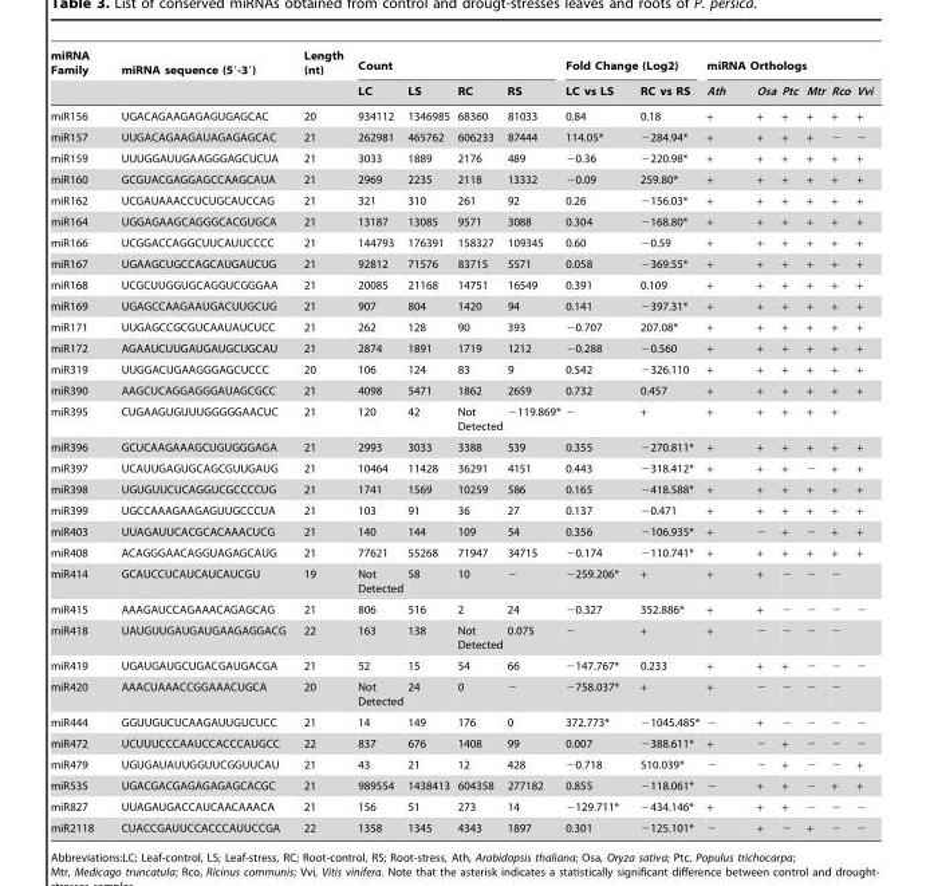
<table><thead><tr><td rowspan="2">miRNA Family</td><td rowspan="2">miRNA sequence (5′-3′)</td><td rowspan="2">Length (nt)</td><td colspan="4">Count</td><td colspan="2">Fold Change (Log2)</td><td colspan="6">miRNA Orthologs</td></tr><tr><td>LC</td><td>LS</td><td>RC</td><td>RS</td><td>LC vs LS</td><td>RC vs RS</td><td>Ath</td><td>Osa</td><td>Ptc</td><td>Mtr</td><td>Rco</td><td>Vvi</td></tr></thead><tbody><tr><td>miR156</td><td>UGACAGAAGAGAGUGAGCAC</td><td>20</td><td>934112</td><td>1346985</td><td>68360</td><td>81033</td><td>0.84</td><td>0.18</td><td>+</td><td>+</td><td>+</td><td>+</td><td>+</td><td>+</td></tr><tr><td>miR157</td><td>UUGACAGAAGAUAGAGAGCAC</td><td>21</td><td>262981</td><td>465762</td><td>606233</td><td>87444</td><td>114.05*</td><td>−284.94*</td><td>+</td><td>+</td><td>+</td><td>+</td><td>−</td><td>−</td></tr><tr><td>miR159</td><td>UUUGGAUUGAAGGGAGCUCUA</td><td>21</td><td>3033</td><td>1889</td><td>2176</td><td>489</td><td>−0.36</td><td>−220.98*</td><td>+</td><td>+</td><td>+</td><td>+</td><td>+</td><td>+</td></tr><tr><td>miR160</td><td>GCGUACGAGGAGCCAAGCAUA</td><td>21</td><td>2969</td><td>2235</td><td>2118</td><td>13332</td><td>−0.09</td><td>259.80*</td><td>+</td><td>+</td><td>+</td><td>+</td><td>+</td><td>+</td></tr><tr><td>miR162</td><td>UCGAUAAACCUCUGCAUCCAG</td><td>21</td><td>321</td><td>310</td><td>261</td><td>92</td><td>0.26</td><td>−156.03*</td><td>+</td><td>+</td><td>+</td><td>+</td><td>+</td><td>+</td></tr><tr><td>miR164</td><td>UGGAGAAGCAGGGCACGUGCA</td><td>21</td><td>13187</td><td>13085</td><td>9571</td><td>3088</td><td>0.304</td><td>−168.80*</td><td>+</td><td>+</td><td>+</td><td>+</td><td>+</td><td>+</td></tr><tr><td>miR166</td><td>UCGGACCAGGCUUCAUUCCCC</td><td>21</td><td>144793</td><td>176391</td><td>158327</td><td>109345</td><td>0.60</td><td>−0.59</td><td>+</td><td>+</td><td>+</td><td>+</td><td>+</td><td>+</td></tr><tr><td>miR167</td><td>UGAAGCUGCCAGCAUGAUCUG</td><td>21</td><td>92812</td><td>71576</td><td>83715</td><td>5571</td><td>0.058</td><td>−369.55*</td><td>+</td><td>+</td><td>+</td><td>+</td><td>+</td><td>+</td></tr><tr><td>miR168</td><td>UCGCUUGGUGCAGGUCGGGAA</td><td>21</td><td>20085</td><td>21168</td><td>14751</td><td>16549</td><td>0.391</td><td>0.109</td><td>+</td><td>+</td><td>+</td><td>+</td><td>+</td><td>+</td></tr><tr><td>miR169</td><td>UGAGCCAAGAAUGACUUGCUG</td><td>21</td><td>907</td><td>804</td><td>1420</td><td>94</td><td>0.141</td><td>−397.31*</td><td>+</td><td>+</td><td>+</td><td>+</td><td>+</td><td>+</td></tr><tr><td>miR171</td><td>UUGAGCCGCGUCAAUAUCUCC</td><td>21</td><td>262</td><td>128</td><td>90</td><td>393</td><td>−0.707</td><td>207.08*</td><td>+</td><td>+</td><td>+</td><td>+</td><td>+</td><td>+</td></tr><tr><td>miR172</td><td>AGAAUCUUGAUGAUGCUGCAU</td><td>21</td><td>2874</td><td>1891</td><td>1719</td><td>1212</td><td>−0.288</td><td>−0.560</td><td>+</td><td>+</td><td>+</td><td>+</td><td>+</td><td>+</td></tr><tr><td>miR319</td><td>UUGGACUGAAGGGAGCUCCC</td><td>20</td><td>106</td><td>124</td><td>83</td><td>9</td><td>0.542</td><td>−326.110</td><td>+</td><td>+</td><td>+</td><td>+</td><td>+</td><td>+</td></tr><tr><td>miR390</td><td>AAGCUCAGGAGGGAUAGCGCC</td><td>21</td><td>4098</td><td>5471</td><td>1862</td><td>2659</td><td>0.732</td><td>0.457</td><td>+</td><td>+</td><td>+</td><td>+</td><td>+</td><td>+</td></tr><tr><td>miR395</td><td>CUGAAGUGUUUGGGGGAACUC</td><td>21</td><td>120</td><td>42</td><td>Not Detected</td><td>−119.869*</td><td>−</td><td>+</td><td>+</td><td>+</td><td>+</td><td>+</td><td>+</td><td></td></tr><tr><td>miR396</td><td>GCUCAAGAAAGCUGUGGGAGA</td><td>21</td><td>2993</td><td>3033</td><td>3388</td><td>539</td><td>0.355</td><td>−270.811*</td><td>+</td><td>+</td><td>+</td><td>+</td><td>+</td><td>+</td></tr><tr><td>miR397</td><td>UCAUUGAGUGCAGCGUUGAUG</td><td>21</td><td>10464</td><td>11428</td><td>36291</td><td>4151</td><td>0.443</td><td>−318.412*</td><td>+</td><td>+</td><td>+</td><td>−</td><td>+</td><td>+</td></tr><tr><td>miR398</td><td>UGUGUUCUCAGGUCGCCCCUG</td><td>21</td><td>1741</td><td>1569</td><td>10259</td><td>586</td><td>0.165</td><td>−418.588*</td><td>+</td><td>+</td><td>+</td><td>+</td><td>+</td><td>+</td></tr><tr><td>miR399</td><td>UGCCAAAGAAGAGUUGCCCUA</td><td>21</td><td>103</td><td>91</td><td>36</td><td>27</td><td>0.137</td><td>−0.471</td><td>+</td><td>+</td><td>+</td><td>+</td><td>+</td><td>+</td></tr><tr><td>miR403</td><td>UUAGAUUCACGCACAAACUCG</td><td>21</td><td>140</td><td>144</td><td>109</td><td>54</td><td>0.356</td><td>−106.935*</td><td>+</td><td>−</td><td>+</td><td>−</td><td>+</td><td>+</td></tr><tr><td>miR408</td><td>ACAGGGAACAGGUAGAGCAUG</td><td>21</td><td>77621</td><td>55268</td><td>71947</td><td>34715</td><td>−0.174</td><td>−110.741*</td><td>+</td><td>+</td><td>+</td><td>+</td><td>+</td><td>+</td></tr><tr><td>miR414</td><td>GCAUCCUCAUCAUCAUCGU</td><td>19</td><td>Not Detected</td><td>58</td><td>10</td><td>−</td><td>−259.206*</td><td>+</td><td>+</td><td>+</td><td>−</td><td>−</td><td>−</td><td></td></tr><tr><td>miR415</td><td>AAAGAUCCAGAAACAGAGCAG</td><td>21</td><td>806</td><td>516</td><td>2</td><td>24</td><td>−0.327</td><td>352.886*</td><td>+</td><td>+</td><td>−</td><td>−</td><td>−</td><td>−</td></tr><tr><td>miR418</td><td>UAUGUUGAUGAUGAAGAGGACG</td><td>22</td><td>163</td><td>138</td><td>Not Detected</td><td>0.075</td><td>−</td><td>+</td><td>+</td><td>−</td><td>−</td><td>−</td><td>−</td><td></td></tr><tr><td>miR419</td><td>UGAUGAUGCUGACGAUGACGA</td><td>21</td><td>52</td><td>15</td><td>54</td><td>66</td><td>−147.767*</td><td>0.233</td><td>+</td><td>+</td><td>+</td><td>−</td><td>−</td><td>−</td></tr><tr><td>miR420</td><td>AAACUAAACCGGAAACUGCA</td><td>20</td><td>Not Detected</td><td>24</td><td>0</td><td>−</td><td>−758.037*</td><td>+</td><td>+</td><td>−</td><td>−</td><td>−</td><td>−</td><td></td></tr><tr><td>miR444</td><td>GGUUGUCUCAAGAUUGUCUCC</td><td>21</td><td>14</td><td>149</td><td>176</td><td>0</td><td>372.773*</td><td>−1045.485*</td><td>−</td><td>+</td><td>−</td><td>−</td><td>−</td><td>−</td></tr><tr><td>miR472</td><td>UCUUUCCCAAUCCACCCAUGCC</td><td>22</td><td>837</td><td>676</td><td>1408</td><td>99</td><td>0.007</td><td>−388.611*</td><td>+</td><td>−</td><td>+</td><td>−</td><td>−</td><td>−</td></tr><tr><td>miR479</td><td>UGUGAUAUUGGUUCGGUUCAU</td><td>21</td><td>43</td><td>21</td><td>12</td><td>428</td><td>−0.718</td><td>510.039*</td><td>−</td><td>−</td><td>+</td><td>−</td><td>−</td><td>+</td></tr><tr><td>miR535</td><td>UGACGACGAGAGAGAGCACGC</td><td>21</td><td>989554</td><td>1438413</td><td>604358</td><td>277182</td><td>0.855</td><td>−118.061*</td><td>−</td><td>+</td><td>+</td><td>−</td><td>+</td><td>+</td></tr><tr><td>miR827</td><td>UUAGAUGACCAUCAACAAACA</td><td>21</td><td>156</td><td>51</td><td>273</td><td>14</td><td>−129.711*</td><td>−434.146*</td><td>+</td><td>+</td><td>+</td><td>−</td><td>−</td><td>−</td></tr><tr><td>miR2118</td><td>CUACCGAUUCCACCCAUUCCGA</td><td>22</td><td>1358</td><td>1345</td><td>4343</td><td>1897</td><td>0.301</td><td>−125.101*</td><td>−</td><td>+</td><td>−</td><td>+</td><td>−</td><td>−</td></tr></tbody></table>